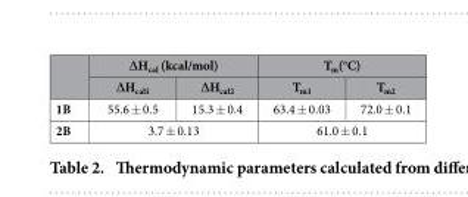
<table><thead><tr><td rowspan="2"></td><td colspan="2">∆H<sub>cal</sub> (kcal/mol)</td><td colspan="2">T<sub>m</sub>(°C)</td></tr><tr><td>∆H<sub>cal1</sub></td><td>∆Hcal2</td><td>T<sub>m1</sub></td><td>T<sub>m2</sub></td></tr></thead><tbody><tr><td>1B</td><td>55.6 ± 0.5</td><td>15.3 ± 0.4</td><td>63.4 ± 0.03</td><td>72.0 ± 0.1</td></tr><tr><td>2B</td><td colspan="2">3.7 ± 0.13</td><td colspan="2">61.0 ± 0.1</td></tr></tbody></table>